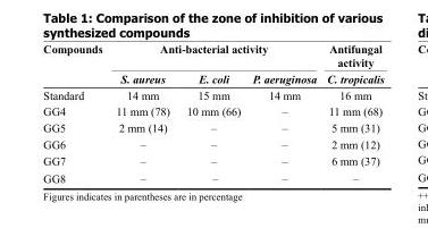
<table><thead><tr><td rowspan="2">Compounds</td><td colspan="3">Anti-bacterial activity</td><td rowspan="2">Antifungal activity C. tropicalis</td></tr><tr><td>S. aureus</td><td>E. coli</td><td>P. aeruginosa</td></tr></thead><tbody><tr><td>Standard</td><td>14 mm</td><td>15 mm</td><td>14 mm</td><td>16 mm</td></tr><tr><td>GG4</td><td>11 mm (78)</td><td>10 mm (66)</td><td>–</td><td>11 mm (68)</td></tr><tr><td>GG5</td><td>2 mm (14)</td><td>–</td><td>–</td><td>5 mm (31)</td></tr><tr><td>GG6</td><td>–</td><td>–</td><td>–</td><td>2 mm (12)</td></tr><tr><td>GG7</td><td>–</td><td>–</td><td>–</td><td>6 mm (37)</td></tr><tr><td>GG8</td><td>–</td><td>–</td><td>–</td><td>–</td></tr></tbody></table>